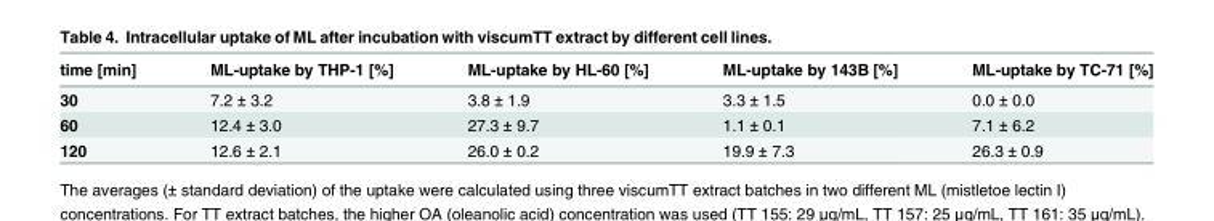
<table><thead><tr><td>time [min]</td><td>ML-uptake by THP-1 [%]</td><td>ML-uptake by HL-60 [%]</td><td>ML-uptake by 143B [%]</td><td>ML-uptake by TC-71 [%]</td></tr></thead><tbody><tr><td>30</td><td>7.2 ± 3.2</td><td>3.8 ± 1.9</td><td>3.3 ± 1.5</td><td>0.0 ± 0.0</td></tr><tr><td>60</td><td>12.4 ± 3.0</td><td>27.3 ± 9.7</td><td>1.1 ± 0.1</td><td>7.1 ± 6.2</td></tr><tr><td>120</td><td>12.6 ± 2.1</td><td>26.0 ± 0.2</td><td>19.9 ± 7.3</td><td>26.3 ± 0.9</td></tr></tbody></table>